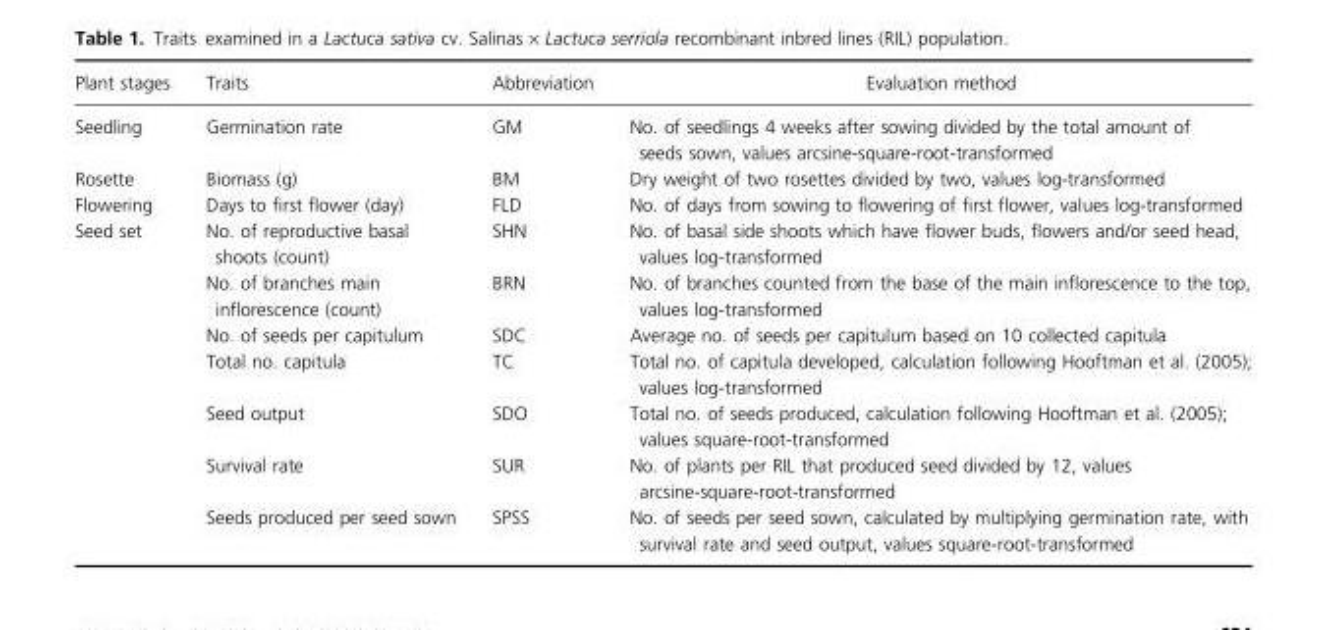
<table><thead><tr><td>Plant stages</td><td>Traits</td><td>Abbreviation</td><td>Evaluation method</td></tr></thead><tbody><tr><td>Seedling</td><td>Germination rate</td><td>GM</td><td>No. of seedlings 4 weeks after sowing divided by the total amount of seeds sown, values arcsine-square-root-transformed</td></tr><tr><td>Rosette</td><td>Biomass (g)</td><td>BM</td><td>Dry weight of two rosettes divided by two, values log-transformed</td></tr><tr><td>Flowering</td><td>Days to first flower (day)</td><td>FLD</td><td>No. of days from sowing to flowering of first flower, values log-transformed</td></tr><tr><td rowspan="7">Seed set</td><td>No. of reproductive basal shoots (count)</td><td>SHN</td><td>No. of basal side shoots which have flower buds, flowers and/or seed head, values log-transformed</td></tr><tr><td>No. of branches main inflorescence (count)</td><td>BRN</td><td>No. of branches counted from the base of the main inflorescence to the top, values log-transformed</td></tr><tr><td>No. of seeds per capitulum</td><td>SDC</td><td>Average no. of seeds per capitulum based on 10 collected capitula</td></tr><tr><td>Total no. capitula</td><td>TC</td><td>Total no. of capitula developed, calculation following Hooftman et al. (2005); values log-transformed</td></tr><tr><td>Seed output</td><td>SDO</td><td>Total no. of seeds produced, calculation following Hooftman et al. (2005); values square-root-transformed</td></tr><tr><td>Survival rate</td><td>SUR</td><td>No. of plants per RIL that produced seed divided by 12, values arcsine-square-root-transformed</td></tr><tr><td>Seeds produced per seed sown</td><td>SPSS</td><td>No. of seeds per seed sown, calculated by multiplying germination rate, with survival rate and seed output, values square-root-transformed</td></tr></tbody></table>